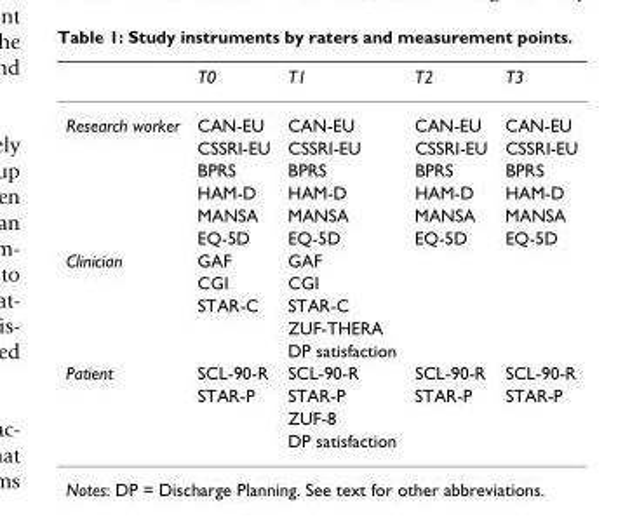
<table><thead><tr><td></td><td>T0</td><td>T1</td><td>T2</td><td>T3</td></tr></thead><tbody><tr><td rowspan="6">Research worker</td><td>CAN-EU</td><td>CAN-EU</td><td>CAN-EU</td><td>CAN-EU</td></tr><tr><td>CSSRI-EU</td><td>CSSRI-EU</td><td>CSSRI-EU</td><td>CSSRI-EU</td></tr><tr><td>BPRS</td><td>BPRS</td><td>BPRS</td><td>BPRS</td></tr><tr><td>HAM-D</td><td>HAM-D</td><td>HAM-D</td><td>HAM-D</td></tr><tr><td>MANSA</td><td>MANSA</td><td>MANSA</td><td>MANSA</td></tr><tr><td>EQ-5D</td><td>EQ-5D</td><td>EQ-5D</td><td>EQ-5D</td></tr><tr><td rowspan="5">Clinician</td><td>GAF</td><td>GAF</td><td></td><td></td></tr><tr><td>CGI</td><td>CGI</td><td></td><td></td></tr><tr><td>STAR-C</td><td>STAR-C</td><td></td><td></td></tr><tr><td></td><td>ZUF-THERA</td><td></td><td></td></tr><tr><td></td><td>DP satisfaction</td><td></td><td></td></tr><tr><td rowspan="4">Patient</td><td>SCL-90-R</td><td>SCL-90-R</td><td>SCL-90-R</td><td>SCL-90-R</td></tr><tr><td>STAR-P</td><td>STAR-P</td><td>STAR-P</td><td>STAR-P</td></tr><tr><td></td><td>ZUF-8</td><td></td><td></td></tr><tr><td></td><td>DP satisfaction</td><td></td><td></td></tr></tbody></table>